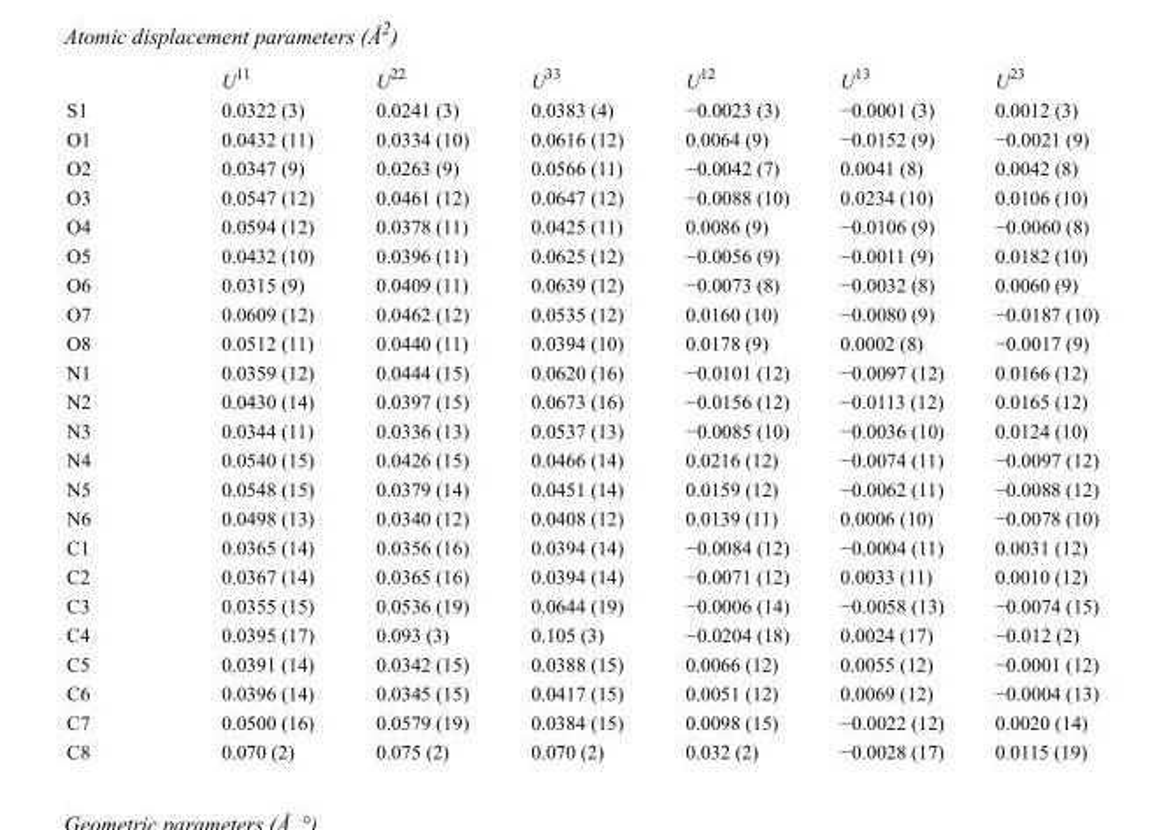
<table><thead><tr><td></td><td>U<sup>11</sup></td><td>U<sup>22</sup></td><td>U<sup>33</sup></td><td>U<sup>12</sup></td><td>U<sup>13</sup></td><td>U<sup>23</sup></td></tr></thead><tbody><tr><td>S1</td><td>0.0322 (3)</td><td>0.0241 (3)</td><td>0.0383 (4)</td><td>−0.0023 (3)</td><td>−0.0001 (3)</td><td>0.0012 (3)</td></tr><tr><td>O1</td><td>0.0432 (11)</td><td>0.0334 (10)</td><td>0.0616 (12)</td><td>0.0064 (9)</td><td>−0.0152 (9)</td><td>−0.0021 (9)</td></tr><tr><td>O2</td><td>0.0347 (9)</td><td>0.0263 (9)</td><td>0.0566 (11)</td><td>−0.0042 (7)</td><td>0.0041 (8)</td><td>0.0042 (8)</td></tr><tr><td>O3</td><td>0.0547 (12)</td><td>0.0461 (12)</td><td>0.0647 (12)</td><td>−0.0088 (10)</td><td>0.0234 (10)</td><td>0.0106 (10)</td></tr><tr><td>O4</td><td>0.0594 (12)</td><td>0.0378 (11)</td><td>0.0425 (11)</td><td>0.0086 (9)</td><td>−0.0106 (9)</td><td>−0.0060 (8)</td></tr><tr><td>O5</td><td>0.0432 (10)</td><td>0.0396 (11)</td><td>0.0625 (12)</td><td>−0.0056 (9)</td><td>−0.0011 (9)</td><td>0.0182 (10)</td></tr><tr><td>O6</td><td>0.0315 (9)</td><td>0.0409 (11)</td><td>0.0639 (12)</td><td>−0.0073 (8)</td><td>−0.0032 (8)</td><td>0.0060 (9)</td></tr><tr><td>O7</td><td>0.0609 (12)</td><td>0.0462 (12)</td><td>0.0535 (12)</td><td>0.0160 (10)</td><td>−0.0080 (9)</td><td>−0.0187 (10)</td></tr><tr><td>O8</td><td>0.0512 (11)</td><td>0.0440 (11)</td><td>0.0394 (10)</td><td>0.0178 (9)</td><td>0.0002 (8)</td><td>−0.0017 (9)</td></tr><tr><td>N1</td><td>0.0359 (12)</td><td>0.0444 (15)</td><td>0.0620 (16)</td><td>−0.0101 (12)</td><td>−0.0097 (12)</td><td>0.0166 (12)</td></tr><tr><td>N2</td><td>0.0430 (14)</td><td>0.0397 (15)</td><td>0.0673 (16)</td><td>−0.0156 (12)</td><td>−0.0113 (12)</td><td>0.0165 (12)</td></tr><tr><td>N3</td><td>0.0344 (11)</td><td>0.0336 (13)</td><td>0.0537 (13)</td><td>−0.0085 (10)</td><td>−0.0036 (10)</td><td>0.0124 (10)</td></tr><tr><td>N4</td><td>0.0540 (15)</td><td>0.0426 (15)</td><td>0.0466 (14)</td><td>0.0216 (12)</td><td>−0.0074 (11)</td><td>−0.0097 (12)</td></tr><tr><td>N5</td><td>0.0548 (15)</td><td>0.0379 (14)</td><td>0.0451 (14)</td><td>0.0159 (12)</td><td>−0.0062 (11)</td><td>−0.0088 (12)</td></tr><tr><td>N6</td><td>0.0498 (13)</td><td>0.0340 (12)</td><td>0.0408 (12)</td><td>0.0139 (11)</td><td>0.0006 (10)</td><td>−0.0078 (10)</td></tr><tr><td>C1</td><td>0.0365 (14)</td><td>0.0356 (16)</td><td>0.0394 (14)</td><td>−0.0084 (12)</td><td>−0.0004 (11)</td><td>0.0031 (12)</td></tr><tr><td>C2</td><td>0.0367 (14)</td><td>0.0365 (16)</td><td>0.0394 (14)</td><td>−0.0071 (12)</td><td>0.0033 (11)</td><td>0.0010 (12)</td></tr><tr><td>C3</td><td>0.0355 (15)</td><td>0.0536 (19)</td><td>0.0644 (19)</td><td>−0.0006 (14)</td><td>−0.0058 (13)</td><td>−0.0074 (15)</td></tr><tr><td>C4</td><td>0.0395 (17)</td><td>0.093 (3)</td><td>0.105 (3)</td><td>−0.0204 (18)</td><td>0.0024 (17)</td><td>−0.012 (2)</td></tr><tr><td>C5</td><td>0.0391 (14)</td><td>0.0342 (15)</td><td>0.0388 (15)</td><td>0.0066 (12)</td><td>0.0055 (12)</td><td>−0.0001 (12)</td></tr><tr><td>C6</td><td>0.0396 (14)</td><td>0.0345 (15)</td><td>0.0417 (15)</td><td>0.0051 (12)</td><td>0.0069 (12)</td><td>−0.0004 (13)</td></tr><tr><td>C7</td><td>0.0500 (16)</td><td>0.0579 (19)</td><td>0.0384 (15)</td><td>0.0098 (15)</td><td>−0.0022 (12)</td><td>0.0020 (14)</td></tr><tr><td>C8</td><td>0.070 (2)</td><td>0.075 (2)</td><td>0.070 (2)</td><td>0.032 (2)</td><td>−0.0028 (17)</td><td>0.0115 (19)</td></tr></tbody></table>